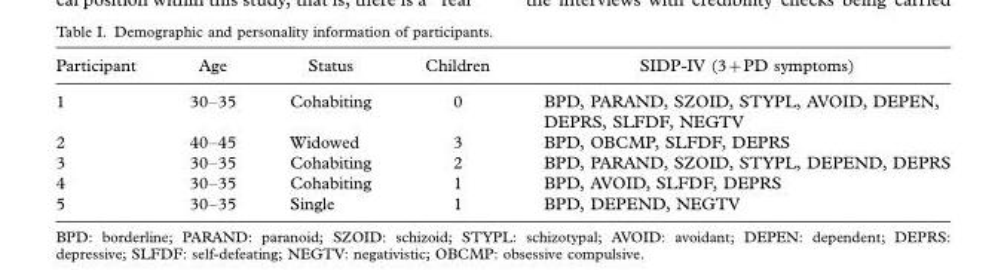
<table><thead><tr><td>Participant</td><td>Age</td><td>Status</td><td>Children</td><td>SIDP-IV (3+PD symptoms)</td></tr></thead><tbody><tr><td>1</td><td>30–35</td><td>Cohabiting</td><td>0</td><td>BPD, PARAND, SZOID, STYPL, AVOID, DEPEN, DEPRS, SLFDF, NEGTV</td></tr><tr><td>2</td><td>40–45</td><td>Widowed</td><td>3</td><td>BPD, OBCMP, SLFDF, DEPRS</td></tr><tr><td>3</td><td>30–35</td><td>Cohabiting</td><td>2</td><td>BPD, PARAND, SZOID, STYPL, DEPEND, DEPRS</td></tr><tr><td>4</td><td>30–35</td><td>Cohabiting</td><td>1</td><td>BPD, AVOID, SLFDF, DEPRS</td></tr><tr><td>5</td><td>30–35</td><td>Single</td><td>1</td><td>BPD, DEPEND, NEGTV</td></tr></tbody></table>